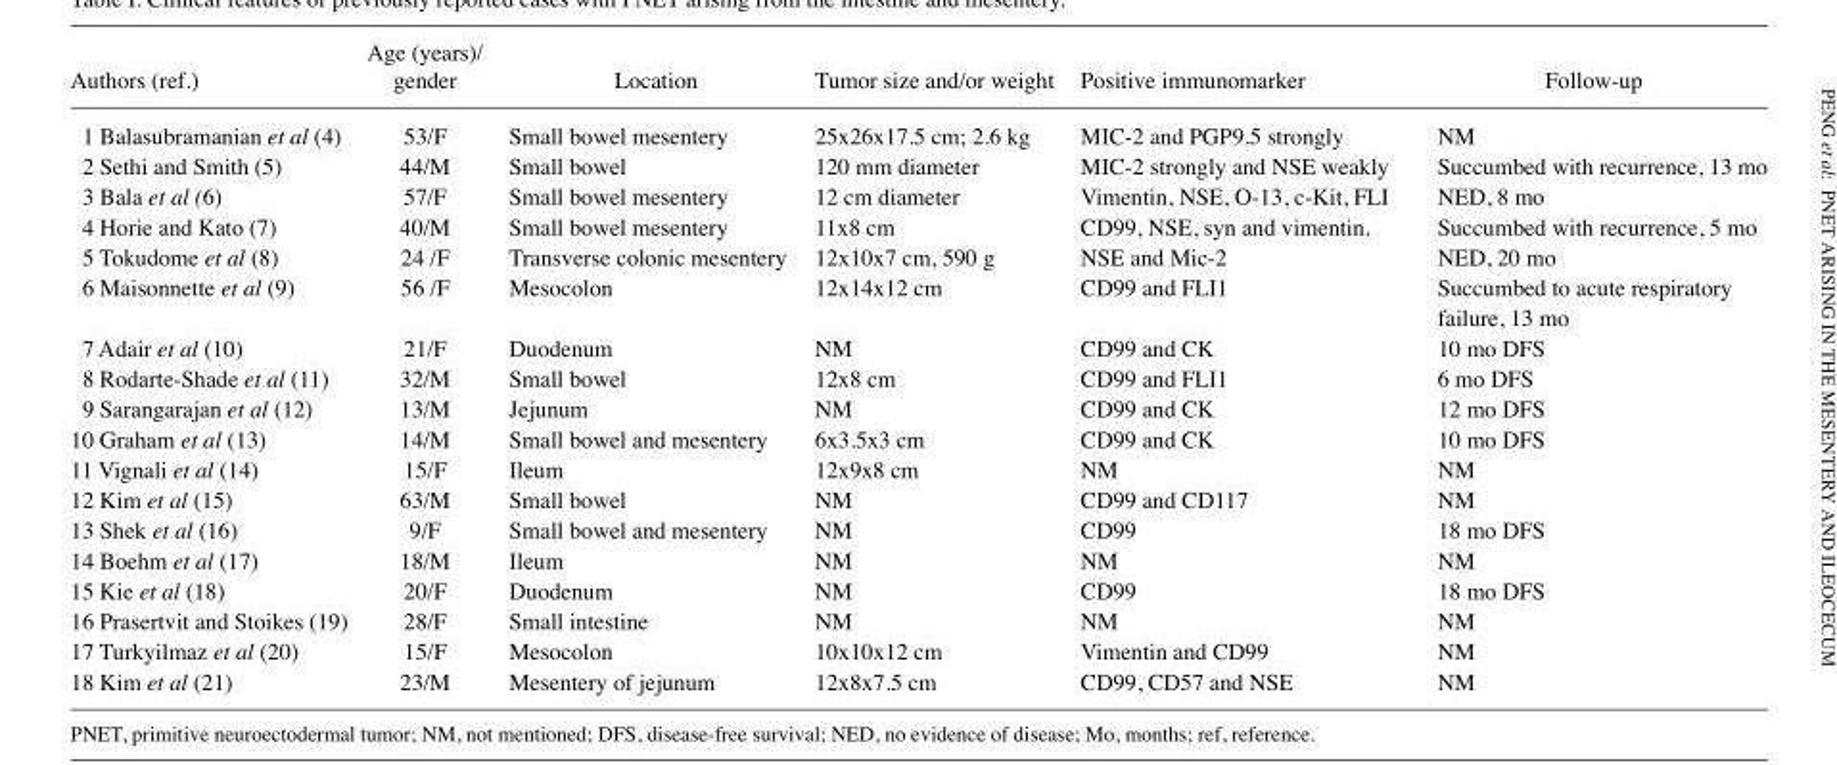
<table><thead><tr><td>Authors (ref.)</td><td>gender</td><td>Location</td><td>Tumor size and/or weight</td><td>Positive immunomarker</td><td>Follow-up</td></tr></thead><tbody><tr><td>1 Balasubramanian et al (4)</td><td>53/F</td><td>Small bowel mesentery</td><td>25x26x17.5 cm; 2.6 kg</td><td>MIC-2 and PGP9.5 strongly</td><td>NM</td></tr><tr><td>2 Sethi and Smith (5)</td><td>44/M</td><td>Small bowel</td><td>120 mm diameter</td><td>MIC-2 strongly and NSE weakly</td><td>Succumbed with recurrence, 13 mo</td></tr><tr><td>3 Bala et al (6)</td><td>57/F</td><td>Small bowel mesentery</td><td>12 cm diameter</td><td>Vimentin, NSE, O-13, c-Kit, FLI</td><td>NED, 8 mo</td></tr><tr><td>4 Horie and Kato (7)</td><td>40/M</td><td>Small bowel mesentery</td><td>11x8 cm</td><td>CD99, NSE, syn and vimentin.</td><td>Succumbed with recurrence, 5 mo</td></tr><tr><td>5 Tokudome et al (8)</td><td>24 /F</td><td>Transverse colonic mesentery</td><td>12x10x7 cm, 590 g</td><td>NSE and Mic-2</td><td>NED, 20 mo</td></tr><tr><td>6 Maisonnette et al (9)</td><td>56 /F</td><td>Mesocolon</td><td>12x14x12 cm</td><td>CD99 and FLI1</td><td>Succumbed to acute respiratory failure, 13 mo</td></tr><tr><td>7 Adair et al (10)</td><td>21/F</td><td>Duodenum</td><td>NM</td><td>CD99 and CK</td><td>10 mo DFS</td></tr><tr><td>8 Rodarte-Shade et al (11)</td><td>32/M</td><td>Small bowel</td><td>12x8 cm</td><td>CD99 and FLI1</td><td>6 mo DFS</td></tr><tr><td>9 Sarangarajan et al (12)</td><td>13/M</td><td>Jejunum</td><td>NM</td><td>CD99 and CK</td><td>12 mo DFS</td></tr><tr><td>10 Graham et al (13)</td><td>14/M</td><td>Small bowel and mesentery</td><td>6x3.5x3 cm</td><td>CD99 and CK</td><td>10 mo DFS</td></tr><tr><td>11 Vignali et al (14)</td><td>15/F</td><td>Ileum</td><td>12x9x8 cm</td><td>NM</td><td>NM</td></tr><tr><td>12 Kim et al (15)</td><td>63/M</td><td>Small bowel</td><td>NM</td><td>CD99 and CD117</td><td>NM</td></tr><tr><td>13 Shek et al (16)</td><td>9/F</td><td>Small bowel and mesentery</td><td>NM</td><td>CD99</td><td>18 mo DFS</td></tr><tr><td>14 Boehm et al (17)</td><td>18/M</td><td>Ileum</td><td>NM</td><td>NM</td><td>NM</td></tr><tr><td>15 Kie et al (18)</td><td>20/F</td><td>Duodenum</td><td>NM</td><td>CD99</td><td>18 mo DFS</td></tr><tr><td>16 Prasertvit and Stoikes (19)</td><td>28/F</td><td>Small intestine</td><td>NM</td><td>NM</td><td>NM</td></tr><tr><td>17 Turkyilmaz et al (20)</td><td>15/F</td><td>Mesocolon</td><td>10x10x12 cm</td><td>Vimentin and CD99</td><td>NM</td></tr><tr><td>18 Kim et al (21)</td><td>23/M</td><td>Mesentery of jejunum</td><td>12x8x7.5 cm</td><td>CD99, CD57 and NSE</td><td>NM</td></tr></tbody></table>